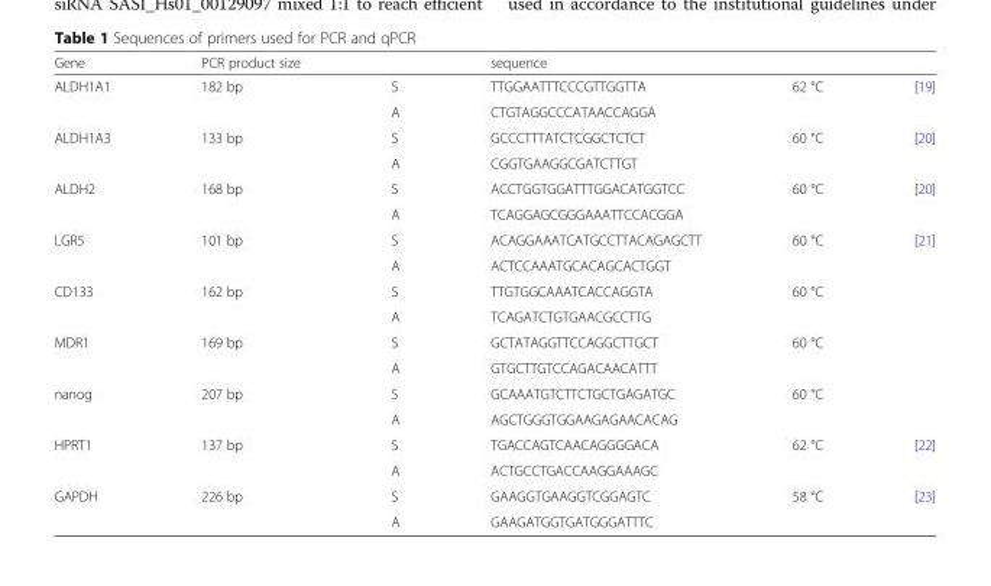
<table><thead><tr><td>Gene</td><td>PCR product size</td><td></td><td>sequence</td><td></td><td></td></tr></thead><tbody><tr><td rowspan="2">ALDH1A1</td><td>182 bp</td><td>S</td><td>TTGGAATTTCCCGTTGGTTA</td><td>62 °C</td><td>[19]</td></tr><tr><td></td><td>A</td><td>CTGTAGGCCCATAACCAGGA</td><td></td><td></td></tr><tr><td rowspan="2">ALDH1A3</td><td>133 bp</td><td>S</td><td>GCCCTTTATCTCGGCTCTCT</td><td>60 °C</td><td>[20]</td></tr><tr><td></td><td>A</td><td>CGGTGAAGGCGATCTTGT</td><td></td><td></td></tr><tr><td rowspan="2">ALDH2</td><td>168 bp</td><td>S</td><td>ACCTGGTGGATTTGGACATGGTCC</td><td>60 °C</td><td>[20]</td></tr><tr><td></td><td>A</td><td>TCAGGAGCGGGAAATTCCACGGA</td><td></td><td></td></tr><tr><td rowspan="2">LGR5</td><td>101 bp</td><td>S</td><td>ACAGGAAATCATGCCTTACAGAGCTT</td><td>60 °C</td><td>[21]</td></tr><tr><td></td><td>A</td><td>ACTCCAAATGCACAGCACTGGT</td><td></td><td></td></tr><tr><td rowspan="2">CD133</td><td>162 bp</td><td>S</td><td>TTGTGGCAAATCACCAGGTA</td><td>60 °C</td><td></td></tr><tr><td></td><td>A</td><td>TCAGATCTGTGAACGCCTTG</td><td></td><td></td></tr><tr><td rowspan="2">MDR1</td><td>169 bp</td><td>S</td><td>GCTATAGGTTCCAGGCTTGCT</td><td>60 °C</td><td></td></tr><tr><td></td><td>A</td><td>GTGCTTGTCCAGACAACATTT</td><td></td><td></td></tr><tr><td rowspan="2">nanog</td><td>207 bp</td><td>S</td><td>GCAAATGTCTTCTGCTGAGATGC</td><td>60 °C</td><td></td></tr><tr><td></td><td>A</td><td>AGCTGGGTGGAAGAGAACACAG</td><td></td><td></td></tr><tr><td rowspan="2">HPRT1</td><td>137 bp</td><td>S</td><td>TGACCAGTCAACAGGGGACA</td><td>62 °C</td><td>[22]</td></tr><tr><td></td><td>A</td><td>ACTGCCTGACCAAGGAAAGC</td><td></td><td></td></tr><tr><td rowspan="2">GAPDH</td><td>226 bp</td><td>S</td><td>GAAGGTGAAGGTCGGAGTC</td><td>58 °C</td><td>[23]</td></tr><tr><td></td><td>A</td><td>GAAGATGGTGATGGGATTTC</td><td></td><td></td></tr></tbody></table>